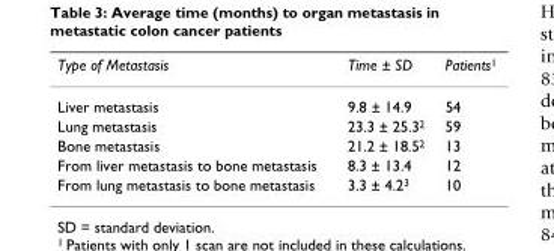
<table><thead><tr><td>Type of Metastasis</td><td>Time ± SD</td><td>Patients<sup>1</sup></td></tr></thead><tbody><tr><td>Liver metastasis</td><td>9.8 ± 14.9</td><td>54</td></tr><tr><td>Lung metastasis</td><td>23.3 ± 25.3<sup>2</sup></td><td>59</td></tr><tr><td>Bone metastasis</td><td>21.2 ± 18.5<sup>2</sup></td><td>13</td></tr><tr><td>From liver metastasis to bone metastasis</td><td>8.3 ± 13.4</td><td>12</td></tr><tr><td>From lung metastasis to bone metastasis</td><td>3.3 ± 4.2<sup>3</sup></td><td>10</td></tr></tbody></table>